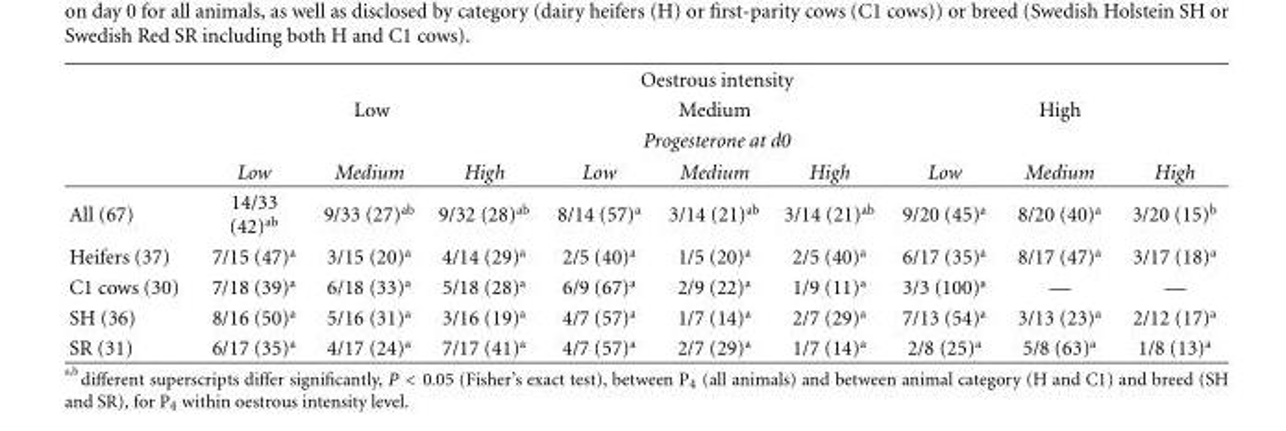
<table><thead><tr><td rowspan="4"></td><td colspan="9">Oestrous intensity</td></tr><tr><td colspan="3">Low</td><td colspan="3">Medium</td><td colspan="3">High</td></tr><tr><td colspan="9">Progesterone at d0</td></tr><tr><td>Low</td><td>Medium</td><td>High</td><td>Low</td><td>Medium</td><td>High</td><td>Low</td><td>Medium</td><td>High</td></tr></thead><tbody><tr><td>All (67)</td><td>14/33 (42)<sup>ab</sup></td><td>9/33 (27)<sup>ab</sup></td><td>9/32 (28)<sup>ab</sup></td><td>8/14 (57)<sup>a</sup></td><td>3/14 (21)<sup>ab</sup></td><td>3/14 (21)<sup>ab</sup></td><td>9/20 (45)<sup>a</sup></td><td>8/20 (40)<sup>a</sup></td><td>3/20 (15)<sup>b</sup></td></tr><tr><td>Heifers (37)</td><td>7/15 (47)<sup>a</sup></td><td>3/15 (20)<sup>a</sup></td><td>4/14 (29)<sup>a</sup></td><td>2/5 (40)<sup>a</sup></td><td>1/5 (20)<sup>a</sup></td><td>2/5 (40)<sup>a</sup></td><td>6/17 (35)<sup>a</sup></td><td>8/17 (47)<sup>a</sup></td><td>3/17 (18)<sup>a</sup></td></tr><tr><td>C1 cows (30)</td><td>7/18 (39)<sup>a</sup></td><td>6/18 (33)<sup>a</sup></td><td>5/18 (28)<sup>a</sup></td><td>6/9 (67)<sup>a</sup></td><td>2/9 (22)<sup>a</sup></td><td>1/9 (11)<sup>a</sup></td><td>3/3 (100)<sup>a</sup></td><td>—</td><td>—</td></tr><tr><td>SH (36)</td><td>8/16 (50)<sup>a</sup></td><td>5/16 (31)<sup>a</sup></td><td>3/16 (19)<sup>a</sup></td><td>4/7 (57)<sup>a</sup></td><td>1/7 (14)<sup>a</sup></td><td>2/7 (29)<sup>a</sup></td><td>7/13 (54)<sup>a</sup></td><td>3/13 (23)<sup>a</sup></td><td>2/12 (17)<sup>a</sup></td></tr><tr><td>SR (31)</td><td>6/17 (35)<sup>a</sup></td><td>4/17 (24)<sup>a</sup></td><td>7/17 (41)<sup>a</sup></td><td>4/7 (57)<sup>a</sup></td><td>2/7 (29)<sup>a</sup></td><td>1/7 (14)<sup>a</sup></td><td>2/8 (25)<sup>a</sup></td><td>5/8 (63)<sup>a</sup></td><td>1/8 (13)<sup>a</sup></td></tr></tbody></table>